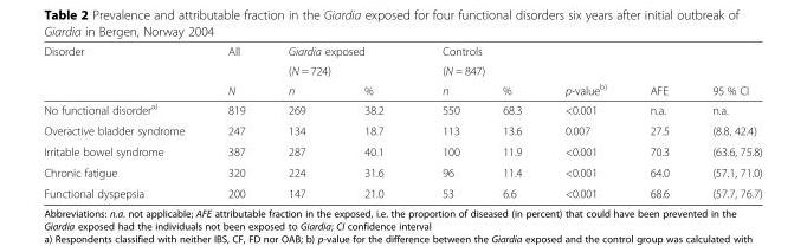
<table><thead><tr><td rowspan="3">Disorder</td><td rowspan="3">All N</td><td rowspan="2" colspan="2">Giardia exposed (N = 724)</td><td rowspan="2" colspan="2">Controls (N = 847)</td><td rowspan="3">p-value<sup>b)</sup></td><td rowspan="3">AFE</td><td rowspan="3">95 % CI</td></tr><tr></tr><tr><td>n</td><td>%</td><td>n</td><td>%</td></tr></thead><tbody><tr><td>No functional disorder<sup>a)</sup></td><td>819</td><td>269</td><td>38.2</td><td>550</td><td>68.3</td><td>&lt;0.001</td><td>n.a.</td><td>n.a.</td></tr><tr><td>Overactive bladder syndrome</td><td>247</td><td>134</td><td>18.7</td><td>113</td><td>13.6</td><td>0.007</td><td>27.5</td><td>(8.8, 42.4)</td></tr><tr><td>Irritable bowel syndrome</td><td>387</td><td>287</td><td>40.1</td><td>100</td><td>11.9</td><td>&lt;0.001</td><td>70.3</td><td>(63.6, 75.8)</td></tr><tr><td>Chronic fatigue</td><td>320</td><td>224</td><td>31.6</td><td>96</td><td>11.4</td><td>&lt;0.001</td><td>64.0</td><td>(57.1, 71.0)</td></tr><tr><td>Functional dyspepsia</td><td>200</td><td>147</td><td>21.0</td><td>53</td><td>6.6</td><td>&lt;0.001</td><td>68.6</td><td>(57.7, 76.7)</td></tr></tbody></table>